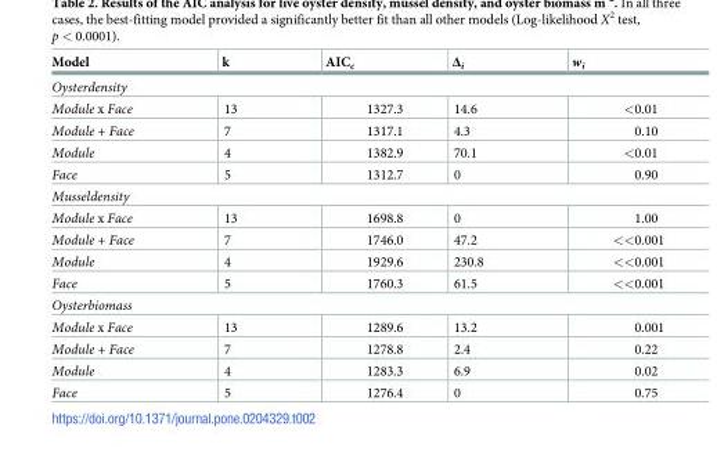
<table><thead><tr><td>Model</td><td>k</td><td>AIC<sub>c</sub></td><td>Δ<sub>i</sub></td><td>w<sub>i</sub></td></tr></thead><tbody><tr><td colspan="5">Oysterdensity</td></tr><tr><td>Module x Face</td><td>13</td><td>1327.3</td><td>14.6</td><td>&lt;0.01</td></tr><tr><td>Module + Face</td><td>7</td><td>1317.1</td><td>4.3</td><td>0.10</td></tr><tr><td>Module</td><td>4</td><td>1382.9</td><td>70.1</td><td>&lt;0.01</td></tr><tr><td>Face</td><td>5</td><td>1312.7</td><td>0</td><td>0.90</td></tr><tr><td colspan="5">Musseldensity</td></tr><tr><td>Module x Face</td><td>13</td><td>1698.8</td><td>0</td><td>1.00</td></tr><tr><td>Module + Face</td><td>7</td><td>1746.0</td><td>47.2</td><td>&lt;&lt;0.001</td></tr><tr><td>Module</td><td>4</td><td>1929.6</td><td>230.8</td><td>&lt;&lt;0.001</td></tr><tr><td>Face</td><td>5</td><td>1760.3</td><td>61.5</td><td>&lt;&lt;0.001</td></tr><tr><td colspan="5">Oysterbiomass</td></tr><tr><td>Module x Face</td><td>13</td><td>1289.6</td><td>13.2</td><td>0.001</td></tr><tr><td>Module + Face</td><td>7</td><td>1278.8</td><td>2.4</td><td>0.22</td></tr><tr><td>Module</td><td>4</td><td>1283.3</td><td>6.9</td><td>0.02</td></tr><tr><td>Face</td><td>5</td><td>1276.4</td><td>0</td><td>0.75</td></tr></tbody></table>